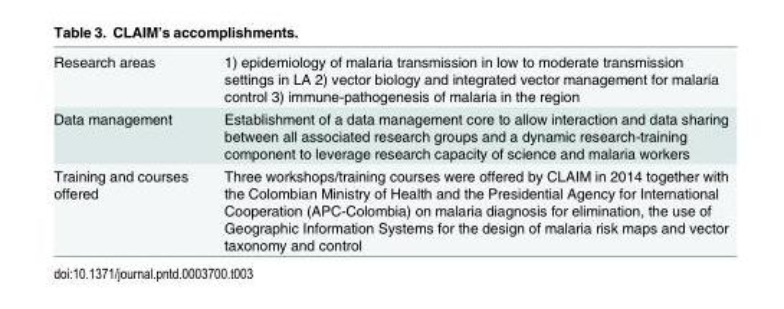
<table><tbody><tr><td>Research areas</td><td>1) epidemiology of malaria transmission in low to moderate transmission settings in LA 2) vector biology and integrated vector management for malaria control 3) immune-pathogenesis of malaria in the region</td></tr><tr><td>Data management</td><td>Establishment of a data management core to allow interaction and data sharing between all associated research groups and a dynamic research-training component to leverage research capacity of science and malaria workers</td></tr><tr><td>Training and courses offered</td><td>Three workshops/training courses were offered by CLAIM in 2014 together with the Colombian Ministry of Health and the Presidential Agency for International Cooperation (APC-Colombia) on malaria diagnosis for elimination, the use of Geographic Information Systems for the design of malaria risk maps and vector taxonomy and control</td></tr></tbody></table>